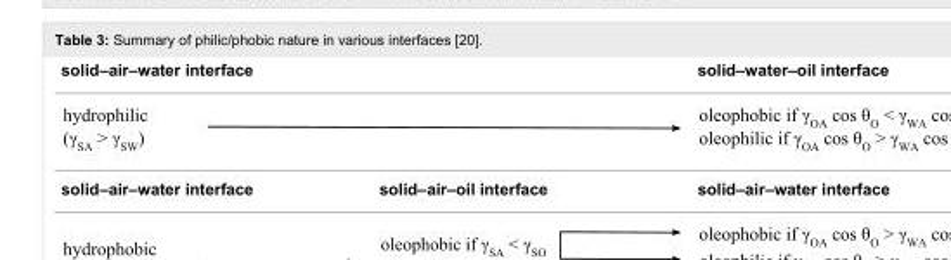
<table><tbody><tr><td>solid–air–water interface</td><td></td><td>solid–water–oil interface</td></tr><tr><td>solid–air–water interface</td><td>solid–air–oil interface</td><td>solid–air–water interface</td></tr></tbody></table>